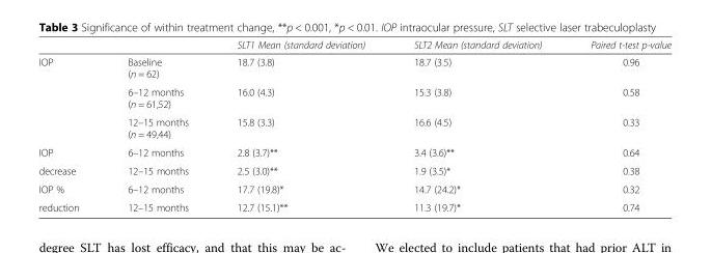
<table><thead><tr><td></td><td></td><td>SLT1 Mean (standard deviation)</td><td>SLT2 Mean (standard deviation)</td><td>Paired t-test p-value</td></tr></thead><tbody><tr><td rowspan="3">IOP</td><td>Baseline (n = 62)</td><td>18.7 (3.8)</td><td>18.7 (3.5)</td><td>0.96</td></tr><tr><td>6–12 months (n = 61,52)</td><td>16.0 (4.3)</td><td>15.3 (3.8)</td><td>0.58</td></tr><tr><td>12–15 months (n = 49,44)</td><td>15.8 (3.3)</td><td>16.6 (4.5)</td><td>0.33</td></tr><tr><td>IOP</td><td>6–12 months</td><td>2.8 (3.7)**</td><td>3.4 (3.6)**</td><td>0.64</td></tr><tr><td>decrease</td><td>12–15 months</td><td>2.5 (3.0)**</td><td>1.9 (3.5)*</td><td>0.38</td></tr><tr><td>IOP %</td><td>6–12 months</td><td>17.7 (19.8)*</td><td>14.7 (24.2)*</td><td>0.32</td></tr><tr><td>reduction</td><td>12–15 months</td><td>12.7 (15.1)**</td><td>11.3 (19.7)*</td><td>0.74</td></tr></tbody></table>